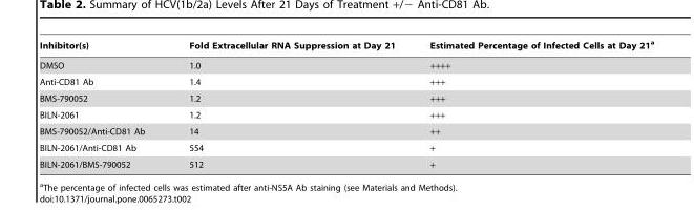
<table><thead><tr><td>Inhibitor(s)</td><td>Fold Extracellular RNA Suppression at Day 21</td><td>Estimated Percentage of Infected Cells at Day 21<sup>a</sup></td></tr></thead><tbody><tr><td>DMSO</td><td>1.0</td><td>++++</td></tr><tr><td>Anti-CD81 Ab</td><td>1.4</td><td>+++</td></tr><tr><td>BMS-790052</td><td>1.2</td><td>+++</td></tr><tr><td>BILN-2061</td><td>1.2</td><td>+++</td></tr><tr><td>BMS-790052/Anti-CD81 Ab</td><td>14</td><td>++</td></tr><tr><td>BILN-2061/Anti-CD81 Ab</td><td>554</td><td>+</td></tr><tr><td>BILN-2061/BMS-790052</td><td>512</td><td>+</td></tr></tbody></table>